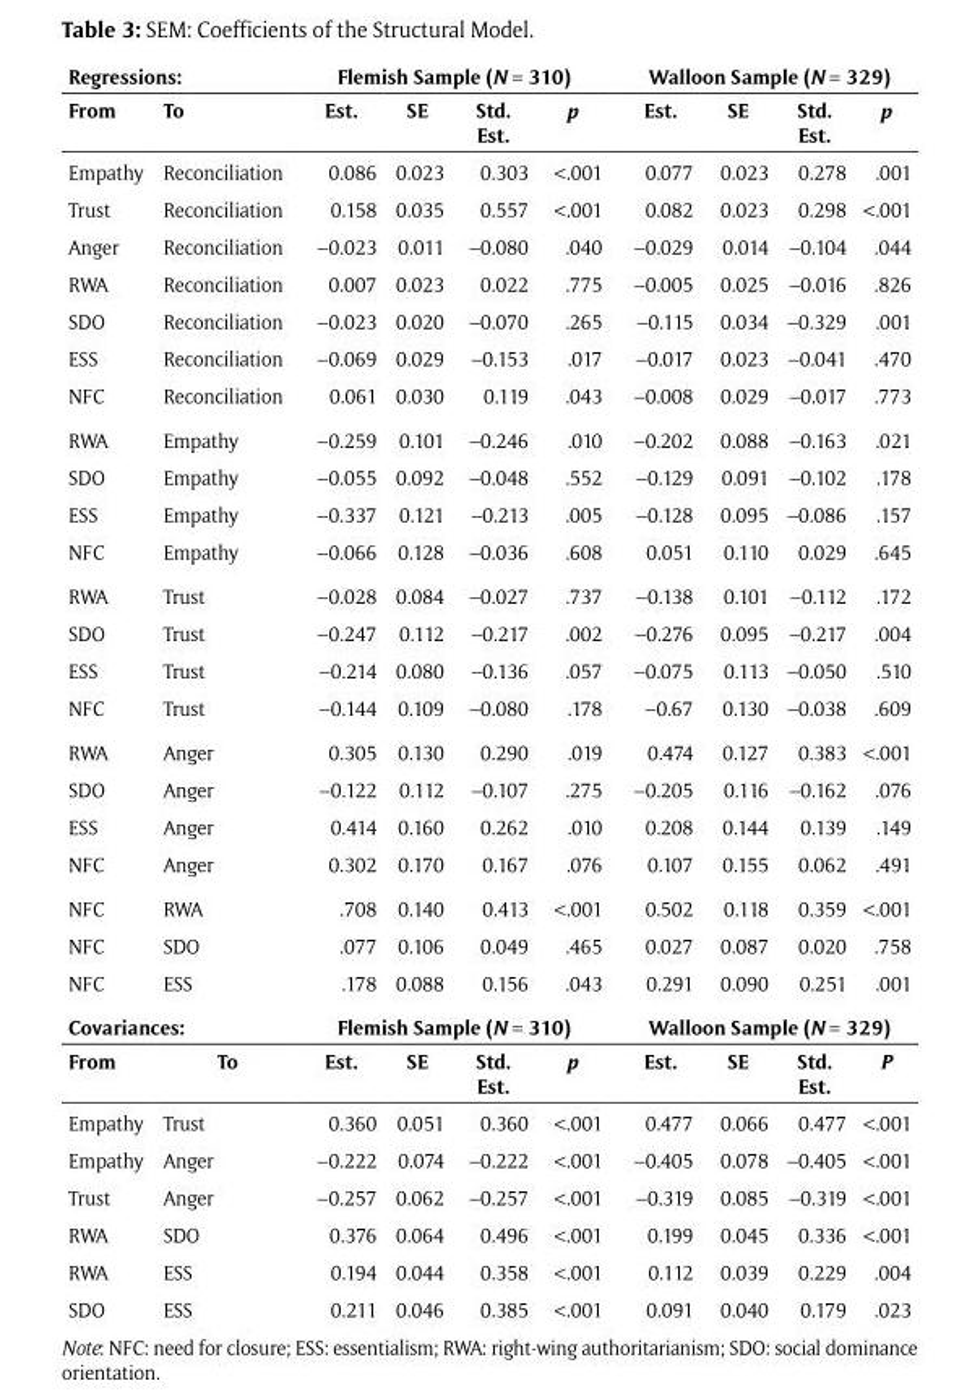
<table><thead><tr><td colspan="2">Regressions:</td><td colspan="4">Flemish Sample (N = 310)</td><td colspan="4">Walloon Sample (N = 329)</td></tr><tr><td>From</td><td>To</td><td>Est.</td><td>SE</td><td>Std. Est.</td><td>p</td><td>Est.</td><td>SE</td><td>Std. Est.</td><td>p</td></tr></thead><tbody><tr><td>Empathy</td><td>Reconciliation</td><td>0.086</td><td>0.023</td><td>0.303</td><td>&lt;.001</td><td>0.077</td><td>0.023</td><td>0.278</td><td>.001</td></tr><tr><td>Trust</td><td>Reconciliation</td><td>0.158</td><td>0.035</td><td>0.557</td><td>&lt;.001</td><td>0.082</td><td>0.023</td><td>0.298</td><td>&lt;.001</td></tr><tr><td>Anger</td><td>Reconciliation</td><td>–0.023</td><td>0.011</td><td>–0.080</td><td>.040</td><td>–0.029</td><td>0.014</td><td>–0.104</td><td>.044</td></tr><tr><td>RWA</td><td>Reconciliation</td><td>0.007</td><td>0.023</td><td>0.022</td><td>.775</td><td>–0.005</td><td>0.025</td><td>–0.016</td><td>.826</td></tr><tr><td>SDO</td><td>Reconciliation</td><td>–0.023</td><td>0.020</td><td>–0.070</td><td>.265</td><td>–0.115</td><td>0.034</td><td>–0.329</td><td>.001</td></tr><tr><td>ESS</td><td>Reconciliation</td><td>–0.069</td><td>0.029</td><td>–0.153</td><td>.017</td><td>–0.017</td><td>0.023</td><td>–0.041</td><td>.470</td></tr><tr><td>NFC</td><td>Reconciliation</td><td>0.061</td><td>0.030</td><td>0.119</td><td>.043</td><td>–0.008</td><td>0.029</td><td>–0.017</td><td>.773</td></tr><tr><td>RWA</td><td>Empathy</td><td>–0.259</td><td>0.101</td><td>–0.246</td><td>.010</td><td>–0.202</td><td>0.088</td><td>–0.163</td><td>.021</td></tr><tr><td>SDO</td><td>Empathy</td><td>–0.055</td><td>0.092</td><td>–0.048</td><td>.552</td><td>–0.129</td><td>0.091</td><td>–0.102</td><td>.178</td></tr><tr><td>ESS</td><td>Empathy</td><td>–0.337</td><td>0.121</td><td>–0.213</td><td>.005</td><td>–0.128</td><td>0.095</td><td>–0.086</td><td>.157</td></tr><tr><td>NFC</td><td>Empathy</td><td>–0.066</td><td>0.128</td><td>–0.036</td><td>.608</td><td>0.051</td><td>0.110</td><td>0.029</td><td>.645</td></tr><tr><td>RWA</td><td>Trust</td><td>–0.028</td><td>0.084</td><td>–0.027</td><td>.737</td><td>–0.138</td><td>0.101</td><td>–0.112</td><td>.172</td></tr><tr><td>SDO</td><td>Trust</td><td>–0.247</td><td>0.112</td><td>–0.217</td><td>.002</td><td>–0.276</td><td>0.095</td><td>–0.217</td><td>.004</td></tr><tr><td>ESS</td><td>Trust</td><td>–0.214</td><td>0.080</td><td>–0.136</td><td>.057</td><td>–0.075</td><td>0.113</td><td>–0.050</td><td>.510</td></tr><tr><td>NFC</td><td>Trust</td><td>–0.144</td><td>0.109</td><td>–0.080</td><td>.178</td><td>–0.67</td><td>0.130</td><td>–0.038</td><td>.609</td></tr><tr><td>RWA</td><td>Anger</td><td>0.305</td><td>0.130</td><td>0.290</td><td>.019</td><td>0.474</td><td>0.127</td><td>0.383</td><td>&lt;.001</td></tr><tr><td>SDO</td><td>Anger</td><td>–0.122</td><td>0.112</td><td>–0.107</td><td>.275</td><td>–0.205</td><td>0.116</td><td>–0.162</td><td>.076</td></tr><tr><td>ESS</td><td>Anger</td><td>0.414</td><td>0.160</td><td>0.262</td><td>.010</td><td>0.208</td><td>0.144</td><td>0.139</td><td>.149</td></tr><tr><td>NFC</td><td>Anger</td><td>0.302</td><td>0.170</td><td>0.167</td><td>.076</td><td>0.107</td><td>0.155</td><td>0.062</td><td>.491</td></tr><tr><td>NFC</td><td>RWA</td><td>.708</td><td>0.140</td><td>0.413</td><td>&lt;.001</td><td>0.502</td><td>0.118</td><td>0.359</td><td>&lt;.001</td></tr><tr><td>NFC</td><td>SDO</td><td>.077</td><td>0.106</td><td>0.049</td><td>.465</td><td>0.027</td><td>0.087</td><td>0.020</td><td>.758</td></tr><tr><td>NFC</td><td>ESS</td><td>.178</td><td>0.088</td><td>0.156</td><td>.043</td><td>0.291</td><td>0.090</td><td>0.251</td><td>.001</td></tr><tr><td colspan="2">Covariances:</td><td colspan="4">Flemish Sample (N = 310)</td><td colspan="4">Walloon Sample (N = 329)</td></tr><tr><td>From</td><td>To</td><td>Est.</td><td>SE</td><td>Std. Est.</td><td>p</td><td>Est.</td><td>SE</td><td>Std. Est.</td><td>P</td></tr><tr><td>Empathy</td><td>Trust</td><td>0.360</td><td>0.051</td><td>0.360</td><td>&lt;.001</td><td>0.477</td><td>0.066</td><td>0.477</td><td>&lt;.001</td></tr><tr><td>Empathy</td><td>Anger</td><td>–0.222</td><td>0.074</td><td>–0.222</td><td>&lt;.001</td><td>–0.405</td><td>0.078</td><td>–0.405</td><td>&lt;.001</td></tr><tr><td>Trust</td><td>Anger</td><td>–0.257</td><td>0.062</td><td>–0.257</td><td>&lt;.001</td><td>–0.319</td><td>0.085</td><td>–0.319</td><td>&lt;.001</td></tr><tr><td>RWA</td><td>SDO</td><td>0.376</td><td>0.064</td><td>0.496</td><td>&lt;.001</td><td>0.199</td><td>0.045</td><td>0.336</td><td>&lt;.001</td></tr><tr><td>RWA</td><td>ESS</td><td>0.194</td><td>0.044</td><td>0.358</td><td>&lt;.001</td><td>0.112</td><td>0.039</td><td>0.229</td><td>.004</td></tr><tr><td>SDO</td><td>ESS</td><td>0.211</td><td>0.046</td><td>0.385</td><td>&lt;.001</td><td>0.091</td><td>0.040</td><td>0.179</td><td>.023</td></tr></tbody></table>